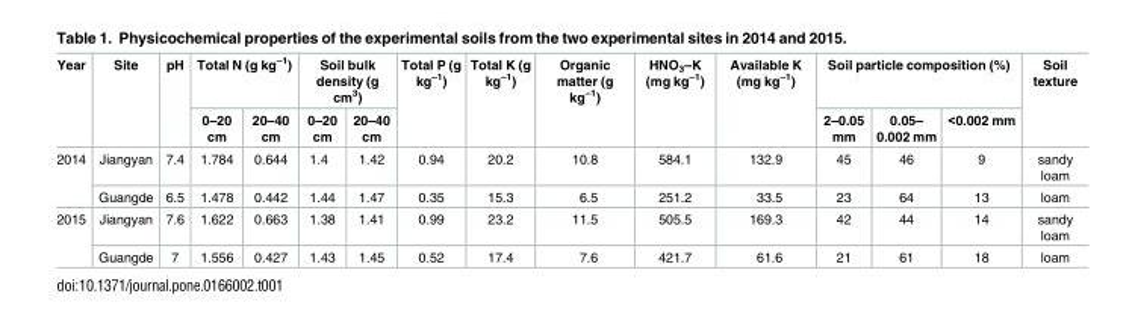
<table><thead><tr><td rowspan="2">Year</td><td rowspan="2">Site</td><td rowspan="2">pH</td><td colspan="2">Total N (g kg<sup>–1</sup>)</td><td colspan="2">Soil bulk density (g cm<sup>3</sup>)</td><td rowspan="2">Total P (g kg<sup>–1</sup>)</td><td rowspan="2">Total K (g kg<sup>–1</sup>)</td><td rowspan="2">Organic matter (g kg<sup>–1</sup>)</td><td rowspan="2">HNO<sub>3</sub>–K (mg kg<sup>–1</sup>)</td><td rowspan="2">Available K (mg kg<sup>–1</sup>)</td><td colspan="3">Soil particle composition (%)</td><td rowspan="2">Soil texture</td></tr><tr><td>0–20 cm</td><td>20–40 cm</td><td>0–20 cm</td><td>20–40 cm</td><td>2–0.05 mm</td><td>0.05– 0.002 mm</td><td>&lt;0.002 mm</td></tr></thead><tbody><tr><td rowspan="2">2014</td><td>Jiangyan</td><td>7.4</td><td>1.784</td><td>0.644</td><td>1.4</td><td>1.42</td><td>0.94</td><td>20.2</td><td>10.8</td><td>584.1</td><td>132.9</td><td>45</td><td>46</td><td>9</td><td>sandy loam</td></tr><tr><td>Guangde</td><td>6.5</td><td>1.478</td><td>0.442</td><td>1.44</td><td>1.47</td><td>0.35</td><td>15.3</td><td>6.5</td><td>251.2</td><td>33.5</td><td>23</td><td>64</td><td>13</td><td>loam</td></tr><tr><td rowspan="2">2015</td><td>Jiangyan</td><td>7.6</td><td>1.622</td><td>0.663</td><td>1.38</td><td>1.41</td><td>0.99</td><td>23.2</td><td>11.5</td><td>505.5</td><td>169.3</td><td>42</td><td>44</td><td>14</td><td>sandy loam</td></tr><tr><td>Guangde</td><td>7</td><td>1.556</td><td>0.427</td><td>1.43</td><td>1.45</td><td>0.52</td><td>17.4</td><td>7.6</td><td>421.7</td><td>61.6</td><td>21</td><td>61</td><td>18</td><td>loam</td></tr></tbody></table>